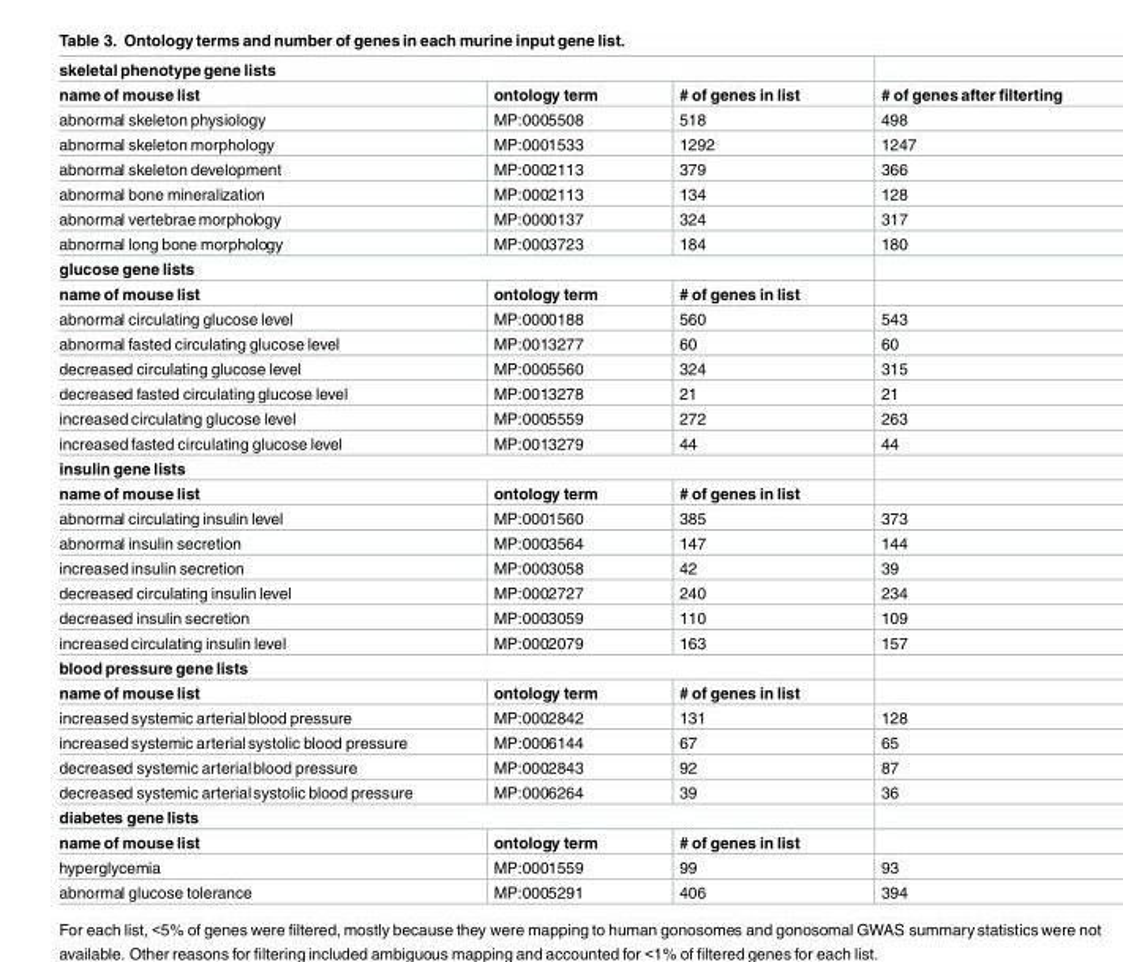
<table><tbody><tr><td colspan="4">skeletal phenotype gene lists</td></tr><tr><td>name of mouse list</td><td>ontology term</td><td># of genes in list</td><td># of genes after filterting</td></tr><tr><td>abnormal skeleton physiology</td><td>MP:0005508</td><td>518</td><td>498</td></tr><tr><td>abnormal skeleton morphology</td><td>MP:0001533</td><td>1292</td><td>1247</td></tr><tr><td>abnormal skeleton development</td><td>MP:0002113</td><td>379</td><td>366</td></tr><tr><td>abnormal bone mineralization</td><td>MP:0002113</td><td>134</td><td>128</td></tr><tr><td>abnormal vertebrae morphology</td><td>MP:0000137</td><td>324</td><td>317</td></tr><tr><td>abnormal long bone morphology</td><td>MP:0003723</td><td>184</td><td>180</td></tr><tr><td colspan="4">glucose gene lists</td></tr><tr><td>name of mouse list</td><td>ontology term</td><td># of genes in list</td><td></td></tr><tr><td>abnormal circulating glucose level</td><td>MP:0000188</td><td>560</td><td>543</td></tr><tr><td>abnormal fasted circulating glucose level</td><td>MP:0013277</td><td>60</td><td>60</td></tr><tr><td>decreased circulating glucose level</td><td>MP:0005560</td><td>324</td><td>315</td></tr><tr><td>decreased fasted circulating glucose level</td><td>MP:0013278</td><td>21</td><td>21</td></tr><tr><td>increased circulating glucose level</td><td>MP:0005559</td><td>272</td><td>263</td></tr><tr><td>increased fasted circulating glucose level</td><td>MP:0013279</td><td>44</td><td>44</td></tr><tr><td colspan="4">insulin gene lists</td></tr><tr><td>name of mouse list</td><td>ontology term</td><td># of genes in list</td><td></td></tr><tr><td>abnormal circulating insulin level</td><td>MP:0001560</td><td>385</td><td>373</td></tr><tr><td>abnormal insulin secretion</td><td>MP:0003564</td><td>147</td><td>144</td></tr><tr><td>increased insulin secretion</td><td>MP:0003058</td><td>42</td><td>39</td></tr><tr><td>decreased circulating insulin level</td><td>MP:0002727</td><td>240</td><td>234</td></tr><tr><td>decreased insulin secretion</td><td>MP:0003059</td><td>110</td><td>109</td></tr><tr><td>increased circulating insulin level</td><td>MP:0002079</td><td>163</td><td>157</td></tr><tr><td colspan="4">blood pressure gene lists</td></tr><tr><td>name of mouse list</td><td>ontology term</td><td># of genes in list</td><td></td></tr><tr><td>increased systemic arterialblood pressure</td><td>MP:0002842</td><td>131</td><td>128</td></tr><tr><td>increased systemic arterialsystolic blood pressure</td><td>MP:0006144</td><td>67</td><td>65</td></tr><tr><td>decreased systemic arterialblood pressure</td><td>MP:0002843</td><td>92</td><td>87</td></tr><tr><td>decreased systemic arterialsystolic blood pressure</td><td>MP:0006264</td><td>39</td><td>36</td></tr><tr><td colspan="4">diabetes gene lists</td></tr><tr><td>name of mouse list</td><td>ontology term</td><td># of genes in list</td><td></td></tr><tr><td>hyperglycemia</td><td>MP:0001559</td><td>99</td><td>93</td></tr><tr><td>abnormal glucose tolerance</td><td>MP:0005291</td><td>406</td><td>394</td></tr></tbody></table>